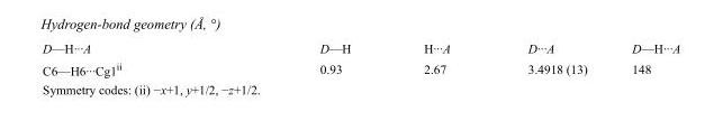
<table><tbody><tr><td>D—H···A</td><td>D—H</td><td>H···A</td><td>D···A</td><td>D—H···A</td></tr><tr><td>C6—H6···Cg1<sup>ii</sup></td><td>0.93</td><td>2.67</td><td>3.4918 (13)</td><td>148</td></tr></tbody></table>